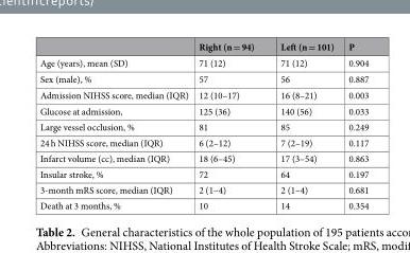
<table><thead><tr><td></td><td>Right (n = 94)</td><td>Left (n = 101)</td><td>P</td></tr></thead><tbody><tr><td>Age (years), mean (SD)</td><td>71 (12)</td><td>71 (12)</td><td>0.904</td></tr><tr><td>Sex (male), %</td><td>57</td><td>56</td><td>0.887</td></tr><tr><td>Admission NIHSS score, median (IQR)</td><td>12 (10–17)</td><td>16 (8–21)</td><td>0.003</td></tr><tr><td>Glucose at admission,</td><td>125 (36)</td><td>140 (56)</td><td>0.033</td></tr><tr><td>Large vessel occlusion, %</td><td>81</td><td>85</td><td>0.249</td></tr><tr><td>24 h NIHSS score, median (IQR)</td><td>6 (2–12)</td><td>7 (2–19)</td><td>0.117</td></tr><tr><td>Infarct volume (cc), median (IQR)</td><td>18 (6–45)</td><td>17 (3–54)</td><td>0.863</td></tr><tr><td>Insular stroke, %</td><td>72</td><td>64</td><td>0.197</td></tr><tr><td>3-month mRS score, median (IQR)</td><td>2 (1–4)</td><td>2 (1–4)</td><td>0.681</td></tr><tr><td>Death at 3 months, %</td><td>10</td><td>14</td><td>0.354</td></tr></tbody></table>